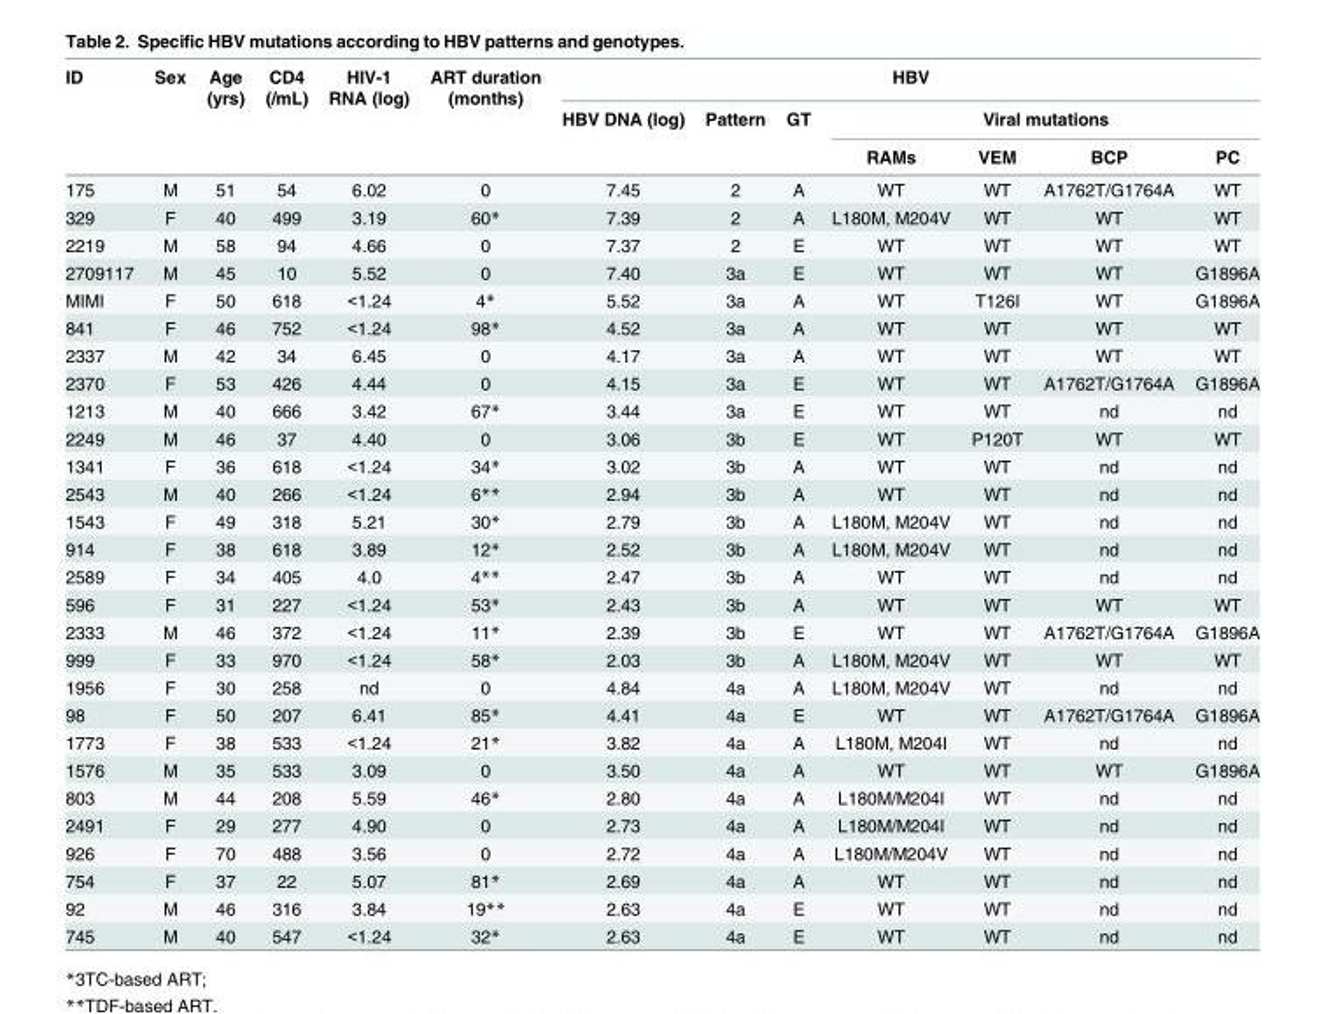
<table><thead><tr><td rowspan="3">ID</td><td rowspan="3">Sex</td><td rowspan="3">Age (yrs)</td><td rowspan="3">CD4 (/mL)</td><td rowspan="3">HIV-1 RNA (log)</td><td rowspan="3">ART duration (months)</td><td colspan="7">HBV</td></tr><tr><td rowspan="2">HBV DNA (log)</td><td rowspan="2">Pattern</td><td rowspan="2">GT</td><td colspan="4">Viral mutations</td></tr><tr><td>RAMs</td><td>VEM</td><td>BCP</td><td>PC</td></tr></thead><tbody><tr><td>175</td><td>M</td><td>51</td><td>54</td><td>6.02</td><td>0</td><td>7.45</td><td>2</td><td>A</td><td>WT</td><td>WT</td><td>A1762T/G1764A</td><td>WT</td></tr><tr><td>329</td><td>F</td><td>40</td><td>499</td><td>3.19</td><td>60*</td><td>7.39</td><td>2</td><td>A</td><td>L180M, M204V</td><td>WT</td><td>WT</td><td>WT</td></tr><tr><td>2219</td><td>M</td><td>58</td><td>94</td><td>4.66</td><td>0</td><td>7.37</td><td>2</td><td>E</td><td>WT</td><td>WT</td><td>WT</td><td>WT</td></tr><tr><td>2709117</td><td>M</td><td>45</td><td>10</td><td>5.52</td><td>0</td><td>7.40</td><td>3a</td><td>E</td><td>WT</td><td>WT</td><td>WT</td><td>G1896A</td></tr><tr><td>MIMI</td><td>F</td><td>50</td><td>618</td><td>&lt;1.24</td><td>4*</td><td>5.52</td><td>3a</td><td>A</td><td>WT</td><td>T126I</td><td>WT</td><td>G1896A</td></tr><tr><td>841</td><td>F</td><td>46</td><td>752</td><td>&lt;1.24</td><td>98*</td><td>4.52</td><td>3a</td><td>A</td><td>WT</td><td>WT</td><td>WT</td><td>WT</td></tr><tr><td>2337</td><td>M</td><td>42</td><td>34</td><td>6.45</td><td>0</td><td>4.17</td><td>3a</td><td>A</td><td>WT</td><td>WT</td><td>WT</td><td>WT</td></tr><tr><td>2370</td><td>F</td><td>53</td><td>426</td><td>4.44</td><td>0</td><td>4.15</td><td>3a</td><td>E</td><td>WT</td><td>WT</td><td>A1762T/G1764A</td><td>G1896A</td></tr><tr><td>1213</td><td>M</td><td>40</td><td>666</td><td>3.42</td><td>67*</td><td>3.44</td><td>3a</td><td>E</td><td>WT</td><td>WT</td><td>nd</td><td>nd</td></tr><tr><td>2249</td><td>M</td><td>46</td><td>37</td><td>4.40</td><td>0</td><td>3.06</td><td>3b</td><td>E</td><td>WT</td><td>P120T</td><td>WT</td><td>WT</td></tr><tr><td>1341</td><td>F</td><td>36</td><td>618</td><td>&lt;1.24</td><td>34*</td><td>3.02</td><td>3b</td><td>A</td><td>WT</td><td>WT</td><td>nd</td><td>nd</td></tr><tr><td>2543</td><td>M</td><td>40</td><td>266</td><td>&lt;1.24</td><td>6**</td><td>2.94</td><td>3b</td><td>A</td><td>WT</td><td>WT</td><td>nd</td><td>nd</td></tr><tr><td>1543</td><td>F</td><td>49</td><td>318</td><td>5.21</td><td>30*</td><td>2.79</td><td>3b</td><td>A</td><td>L180M, M204V</td><td>WT</td><td>nd</td><td>nd</td></tr><tr><td>914</td><td>F</td><td>38</td><td>618</td><td>3.89</td><td>12*</td><td>2.52</td><td>3b</td><td>A</td><td>L180M, M204V</td><td>WT</td><td>nd</td><td>nd</td></tr><tr><td>2589</td><td>F</td><td>34</td><td>405</td><td>4.0</td><td>4**</td><td>2.47</td><td>3b</td><td>A</td><td>WT</td><td>WT</td><td>nd</td><td>nd</td></tr><tr><td>596</td><td>F</td><td>31</td><td>227</td><td>&lt;1.24</td><td>53*</td><td>2.43</td><td>3b</td><td>A</td><td>WT</td><td>WT</td><td>WT</td><td>WT</td></tr><tr><td>2333</td><td>M</td><td>46</td><td>372</td><td>&lt;1.24</td><td>11*</td><td>2.39</td><td>3b</td><td>E</td><td>WT</td><td>WT</td><td>A1762T/G1764A</td><td>G1896A</td></tr><tr><td>999</td><td>F</td><td>33</td><td>970</td><td>&lt;1.24</td><td>58*</td><td>2.03</td><td>3b</td><td>A</td><td>L180M, M204V</td><td>WT</td><td>WT</td><td>WT</td></tr><tr><td>1956</td><td>F</td><td>30</td><td>258</td><td>nd</td><td>0</td><td>4.84</td><td>4a</td><td>A</td><td>L180M, M204V</td><td>WT</td><td>nd</td><td>nd</td></tr><tr><td>98</td><td>F</td><td>50</td><td>207</td><td>6.41</td><td>85*</td><td>4.41</td><td>4a</td><td>E</td><td>WT</td><td>WT</td><td>A1762T/G1764A</td><td>G1896A</td></tr><tr><td>1773</td><td>F</td><td>38</td><td>533</td><td>&lt;1.24</td><td>21*</td><td>3.82</td><td>4a</td><td>A</td><td>L180M, M204I</td><td>WT</td><td>nd</td><td>nd</td></tr><tr><td>1576</td><td>M</td><td>35</td><td>533</td><td>3.09</td><td>0</td><td>3.50</td><td>4a</td><td>A</td><td>WT</td><td>WT</td><td>WT</td><td>G1896A</td></tr><tr><td>803</td><td>M</td><td>44</td><td>208</td><td>5.59</td><td>46*</td><td>2.80</td><td>4a</td><td>A</td><td>L180M/M204I</td><td>WT</td><td>nd</td><td>nd</td></tr><tr><td>2491</td><td>F</td><td>29</td><td>277</td><td>4.90</td><td>0</td><td>2.73</td><td>4a</td><td>A</td><td>L180M/M204I</td><td>WT</td><td>nd</td><td>nd</td></tr><tr><td>926</td><td>F</td><td>70</td><td>488</td><td>3.56</td><td>0</td><td>2.72</td><td>4a</td><td>A</td><td>L180M/M204V</td><td>WT</td><td>nd</td><td>nd</td></tr><tr><td>754</td><td>F</td><td>37</td><td>22</td><td>5.07</td><td>81*</td><td>2.69</td><td>4a</td><td>A</td><td>WT</td><td>WT</td><td>nd</td><td>nd</td></tr><tr><td>92</td><td>M</td><td>46</td><td>316</td><td>3.84</td><td>19**</td><td>2.63</td><td>4a</td><td>E</td><td>WT</td><td>WT</td><td>nd</td><td>nd</td></tr><tr><td>745</td><td>M</td><td>40</td><td>547</td><td>&lt;1.24</td><td>32*</td><td>2.63</td><td>4a</td><td>E</td><td>WT</td><td>WT</td><td>nd</td><td>nd</td></tr></tbody></table>